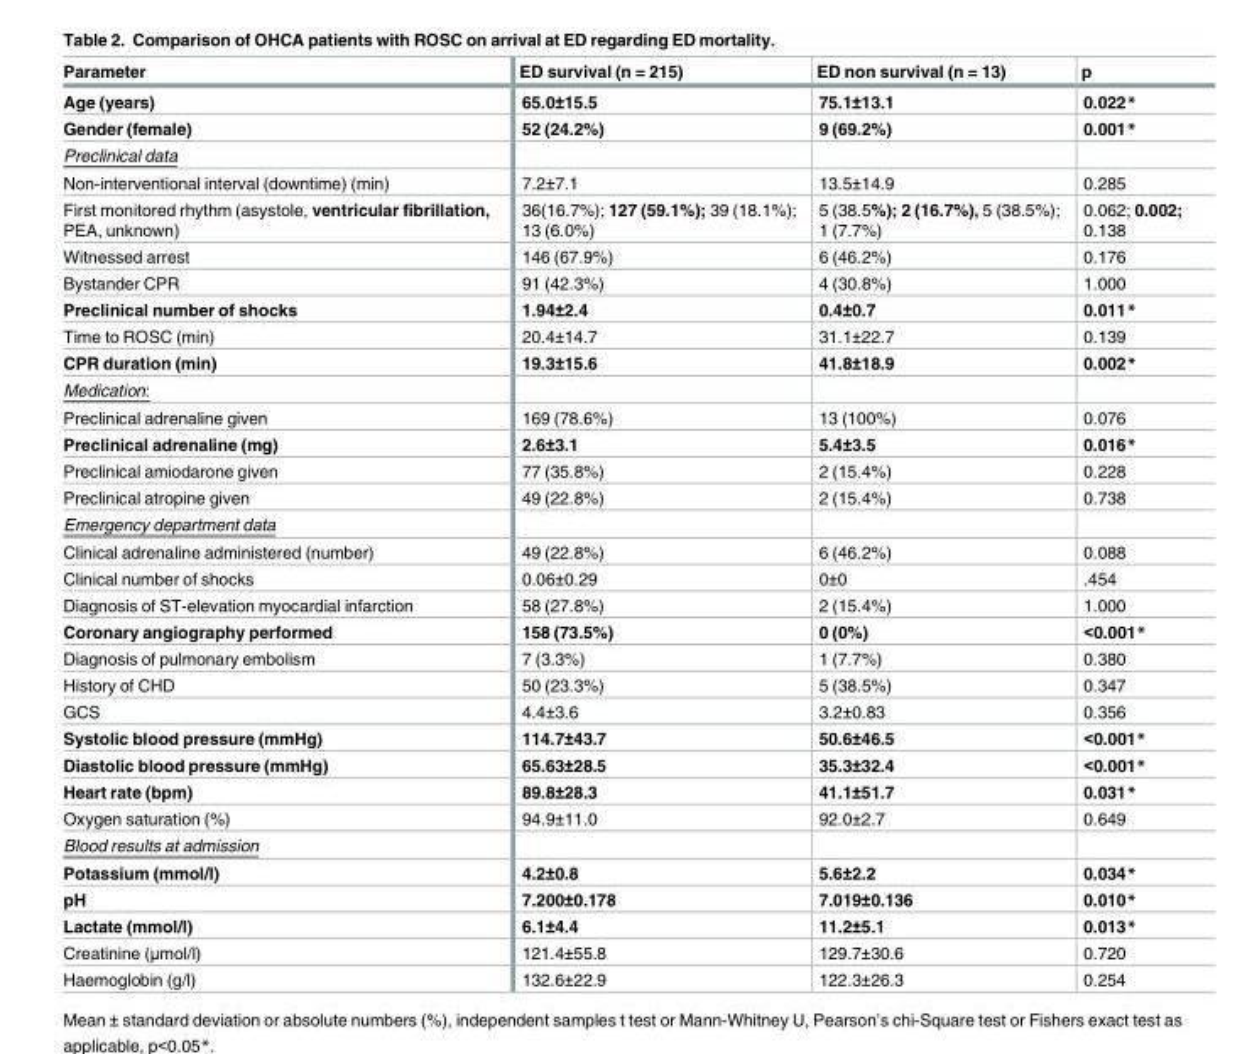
<table><thead><tr><td>Parameter</td><td>ED survival (n = 215)</td><td>ED non survival (n = 13)</td><td>p</td></tr></thead><tbody><tr><td>Age (years)</td><td>65.0±15.5</td><td>75.1±13.1</td><td>0.022*</td></tr><tr><td>Gender (female)</td><td>52 (24.2%)</td><td>9 (69.2%)</td><td>0.001*</td></tr><tr><td colspan="4">Preclinical data</td></tr><tr><td>Non-interventional interval (downtime) (min)</td><td>7.2±7.1</td><td>13.5±14.9</td><td>0.285</td></tr><tr><td>First monitored rhythm (asystole, ventricular fibrillation, PEA, unknown)</td><td>36(16.7%); 127 (59.1%); 39 (18.1%); 13 (6.0%)</td><td>5 (38.5%); 2 (16.7%), 5 (38.5%); 1 (7.7%)</td><td>0.062; 0.002; 0.138</td></tr><tr><td>Witnessed arrest</td><td>146 (67.9%)</td><td>6 (46.2%)</td><td>0.176</td></tr><tr><td>Bystander CPR</td><td>91 (42.3%)</td><td>4 (30.8%)</td><td>1.000</td></tr><tr><td>Preclinical number of shocks</td><td>1.94±2.4</td><td>0.4±0.7</td><td>0.011*</td></tr><tr><td>Time to ROSC (min)</td><td>20.4±14.7</td><td>31.1±22.7</td><td>0.139</td></tr><tr><td>CPR duration (min)</td><td>19.3±15.6</td><td>41.8±18.9</td><td>0.002*</td></tr><tr><td colspan="4">Medication:</td></tr><tr><td>Preclinical adrenaline given</td><td>169 (78.6%)</td><td>13 (100%)</td><td>0.076</td></tr><tr><td>Preclinical adrenaline (mg)</td><td>2.6±3.1</td><td>5.4±3.5</td><td>0.016*</td></tr><tr><td>Preclinical amiodarone given</td><td>77 (35.8%)</td><td>2 (15.4%)</td><td>0.228</td></tr><tr><td>Preclinical atropine given</td><td>49 (22.8%)</td><td>2 (15.4%)</td><td>0.738</td></tr><tr><td colspan="4">Emergency department data</td></tr><tr><td>Clinical adrenaline administered (number)</td><td>49 (22.8%)</td><td>6 (46.2%)</td><td>0.088</td></tr><tr><td>Clinical number of shocks</td><td>0.06±0.29</td><td>0±0</td><td>.454</td></tr><tr><td>Diagnosis of ST-elevation myocardial infarction</td><td>58 (27.8%)</td><td>2 (15.4%)</td><td>1.000</td></tr><tr><td>Coronary angiography performed</td><td>158 (73.5%)</td><td>0 (0%)</td><td>&lt;0.001*</td></tr><tr><td>Diagnosis of pulmonary embolism</td><td>7 (3.3%)</td><td>1 (7.7%)</td><td>0.380</td></tr><tr><td>History of CHD</td><td>50 (23.3%)</td><td>5 (38.5%)</td><td>0.347</td></tr><tr><td>GCS</td><td>4.4±3.6</td><td>3.2±0.83</td><td>0.356</td></tr><tr><td>Systolic blood pressure (mmHg)</td><td>114.7±43.7</td><td>50.6±46.5</td><td>&lt;0.001*</td></tr><tr><td>Diastolic blood pressure (mmHg)</td><td>65.63±28.5</td><td>35.3±32.4</td><td>&lt;0.001*</td></tr><tr><td>Heart rate (bpm)</td><td>89.8±28.3</td><td>41.1±51.7</td><td>0.031*</td></tr><tr><td>Oxygen saturation (%)</td><td>94.9±11.0</td><td>92.0±2.7</td><td>0.649</td></tr><tr><td colspan="4">Blood results at admission</td></tr><tr><td>Potassium (mmol/l)</td><td>4.2±0.8</td><td>5.6±2.2</td><td>0.034*</td></tr><tr><td>pH</td><td>7.200±0.178</td><td>7.019±0.136</td><td>0.010*</td></tr><tr><td>Lactate (mmol/l)</td><td>6.1±4.4</td><td>11.2±5.1</td><td>0.013*</td></tr><tr><td>Creatinine (μmol/l)</td><td>121.4±55.8</td><td>129.7±30.6</td><td>0.720</td></tr><tr><td>Haemoglobin (g/l)</td><td>132.6±22.9</td><td>122.3±26.3</td><td>0.254</td></tr></tbody></table>